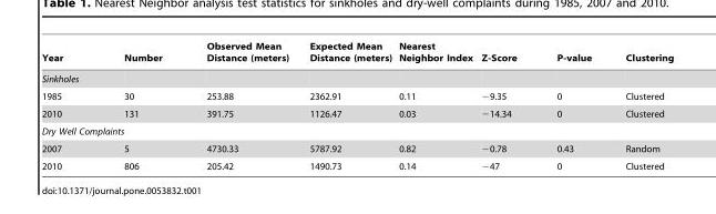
<table><thead><tr><td>Year</td><td>Number</td><td>Observed Mean Distance (meters)</td><td>Expected Mean Distance (meters)</td><td>Nearest Neighbor Index</td><td>Z-Score</td><td>P-value</td><td>Clustering</td></tr></thead><tbody><tr><td colspan="8">Sinkholes</td></tr><tr><td>1985</td><td>30</td><td>253.88</td><td>2362.91</td><td>0.11</td><td>−9.35</td><td>0</td><td>Clustered</td></tr><tr><td>2010</td><td>131</td><td>391.75</td><td>1126.47</td><td>0.03</td><td>−14.34</td><td>0</td><td>Clustered</td></tr><tr><td colspan="8">Dry Well Complaints</td></tr><tr><td>2007</td><td>5</td><td>4730.33</td><td>5787.92</td><td>0.82</td><td>−0.78</td><td>0.43</td><td>Random</td></tr><tr><td>2010</td><td>806</td><td>205.42</td><td>1490.73</td><td>0.14</td><td>−47</td><td>0</td><td>Clustered</td></tr></tbody></table>